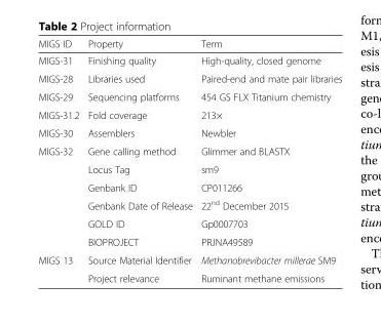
<table><thead><tr><td>MIGS ID</td><td>Property</td><td>Term</td></tr></thead><tbody><tr><td>MIGS-31</td><td>Finishing quality</td><td>High-quality, closed genome</td></tr><tr><td>MIGS-28</td><td>Libraries used</td><td>Paired-end and mate pair libraries</td></tr><tr><td>MIGS-29</td><td>Sequencing platforms</td><td>454 GS FLX Titanium chemistry</td></tr><tr><td>MIGS-31.2</td><td>Fold coverage</td><td>213×</td></tr><tr><td>MIGS-30</td><td>Assemblers</td><td>Newbler</td></tr><tr><td rowspan="6">MIGS-32</td><td>Gene calling method</td><td>Glimmer and BLASTX</td></tr><tr><td>Locus Tag</td><td>sm9</td></tr><tr><td>Genbank ID</td><td>CP011266</td></tr><tr><td>Genbank Date of Release</td><td>22<sup>nd</sup> December 2015</td></tr><tr><td>GOLD ID</td><td>Gp0007703</td></tr><tr><td>BIOPROJECT</td><td>PRJNA49589</td></tr><tr><td rowspan="2">MIGS 13</td><td>Source Material Identifier</td><td>Methanobrevibacter millerae SM9</td></tr><tr><td>Project relevance</td><td>Ruminant methane emissions</td></tr></tbody></table>